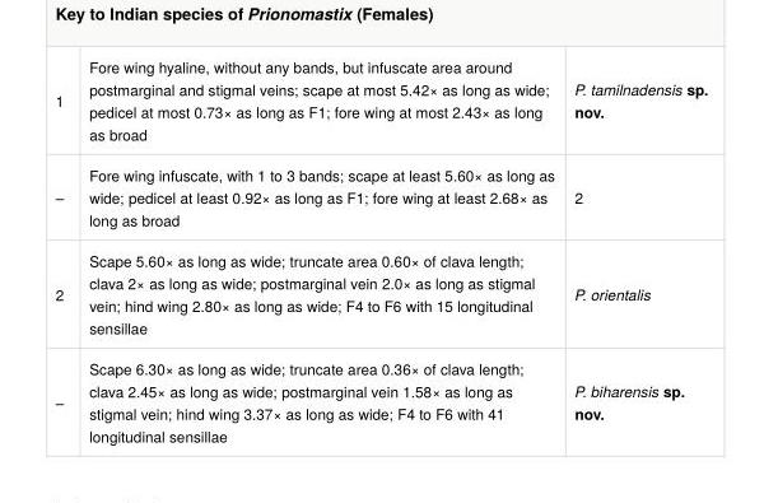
<table><tbody><tr><td>1</td><td>Fore wing hyaline, without any bands, but infuscate area around postmarginal and stigmal veins; scape at most 5.42× as long as wide; pedicel at most 0.73× as long as F1; fore wing at most 2.43× as long as broad</td><td>P. tamilnadensis sp. nov.</td></tr><tr><td>–</td><td>Fore wing infuscate, with 1 to 3 bands; scape at least 5.60× as long as wide; pedicel at least 0.92× as long as F1; fore wing at least 2.68× as long as broad</td><td>2</td></tr><tr><td>2</td><td>Scape 5.60× as long as wide; truncate area 0.60× of clava length; clava 2× as long as wide; postmarginal vein 2.0× as long as stigmal vein; hind wing 2.80× as long as wide; F4 to F6 with 15 longitudinal sensillae</td><td>P. orientalis</td></tr><tr><td>–</td><td>Scape 6.30× as long as wide; truncate area 0.36× of clava length; clava 2.45× as long as wide; postmarginal vein 1.58× as long as stigmal vein; hind wing 3.37× as long as wide; F4 to F6 with 41 longitudinal sensillae</td><td>P. biharensis sp. nov.</td></tr></tbody></table>